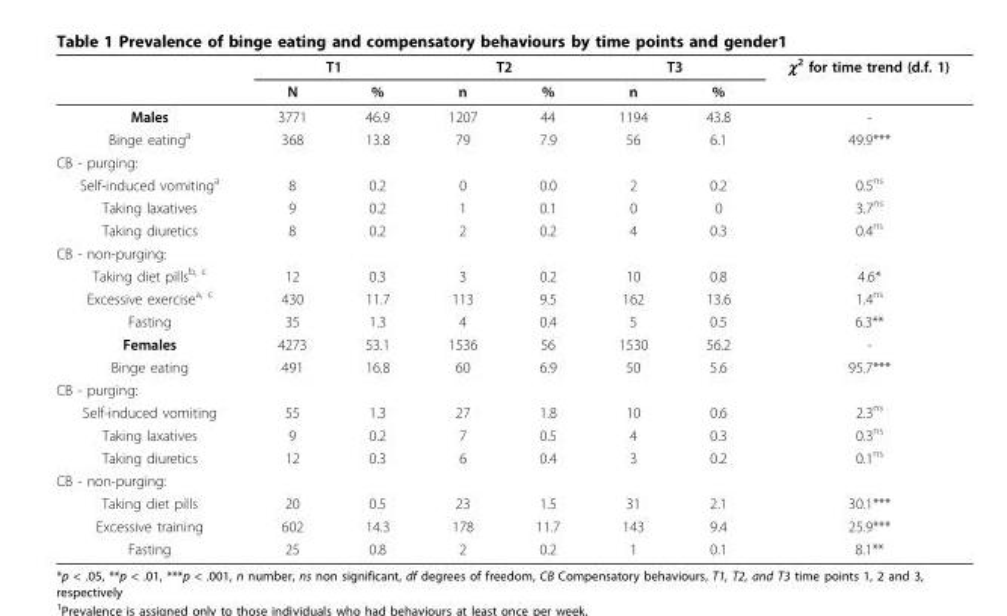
<table><thead><tr><td rowspan="2"></td><td colspan="2">T1</td><td colspan="2">T2</td><td colspan="2">T3</td><td rowspan="2">χ<sup>2</sup> for time trend (d.f. 1)</td></tr><tr><td>N</td><td>%</td><td>n</td><td>%</td><td>n</td><td>%</td></tr></thead><tbody><tr><td>Males</td><td>3771</td><td>46.9</td><td>1207</td><td>44</td><td>1194</td><td>43.8</td><td>-</td></tr><tr><td>Binge eating<sup>a</sup></td><td>368</td><td>13.8</td><td>79</td><td>7.9</td><td>56</td><td>6.1</td><td>49.9***</td></tr><tr><td colspan="8">CB - purging:</td></tr><tr><td>Self-induced vomiting<sup>a</sup></td><td>8</td><td>0.2</td><td>0</td><td>0.0</td><td>2</td><td>0.2</td><td>0.5<sup>ns</sup></td></tr><tr><td>Taking laxatives</td><td>9</td><td>0.2</td><td>1</td><td>0.1</td><td>0</td><td>0</td><td>3.7<sup>ns</sup></td></tr><tr><td>Taking diuretics</td><td>8</td><td>0.2</td><td>2</td><td>0.2</td><td>4</td><td>0.3</td><td>0.4<sup>ns</sup></td></tr><tr><td colspan="8">CB - non-purging:</td></tr><tr><td>Taking diet pills<sup>b, c</sup></td><td>12</td><td>0.3</td><td>3</td><td>0.2</td><td>10</td><td>0.8</td><td>4.6*</td></tr><tr><td>Excessive exercise<sup>a, c</sup></td><td>430</td><td>11.7</td><td>113</td><td>9.5</td><td>162</td><td>13.6</td><td>1.4<sup>ns</sup></td></tr><tr><td>Fasting</td><td>35</td><td>1.3</td><td>4</td><td>0.4</td><td>5</td><td>0.5</td><td>6.3**</td></tr><tr><td>Females</td><td>4273</td><td>53.1</td><td>1536</td><td>56</td><td>1530</td><td>56.2</td><td>-</td></tr><tr><td>Binge eating</td><td>491</td><td>16.8</td><td>60</td><td>6.9</td><td>50</td><td>5.6</td><td>95.7***</td></tr><tr><td colspan="8">CB - purging:</td></tr><tr><td>Self-induced vomiting</td><td>55</td><td>1.3</td><td>27</td><td>1.8</td><td>10</td><td>0.6</td><td>2.3<sup>ns</sup></td></tr><tr><td>Taking laxatives</td><td>9</td><td>0.2</td><td>7</td><td>0.5</td><td>4</td><td>0.3</td><td>0.3<sup>ns</sup></td></tr><tr><td>Taking diuretics</td><td>12</td><td>0.3</td><td>6</td><td>0.4</td><td>3</td><td>0.2</td><td>0.1<sup>ns</sup></td></tr><tr><td colspan="8">CB - non-purging:</td></tr><tr><td>Taking diet pills</td><td>20</td><td>0.5</td><td>23</td><td>1.5</td><td>31</td><td>2.1</td><td>30.1***</td></tr><tr><td>Excessive training</td><td>602</td><td>14.3</td><td>178</td><td>11.7</td><td>143</td><td>9.4</td><td>25.9***</td></tr><tr><td>Fasting</td><td>25</td><td>0.8</td><td>2</td><td>0.2</td><td>1</td><td>0.1</td><td>8.1**</td></tr></tbody></table>